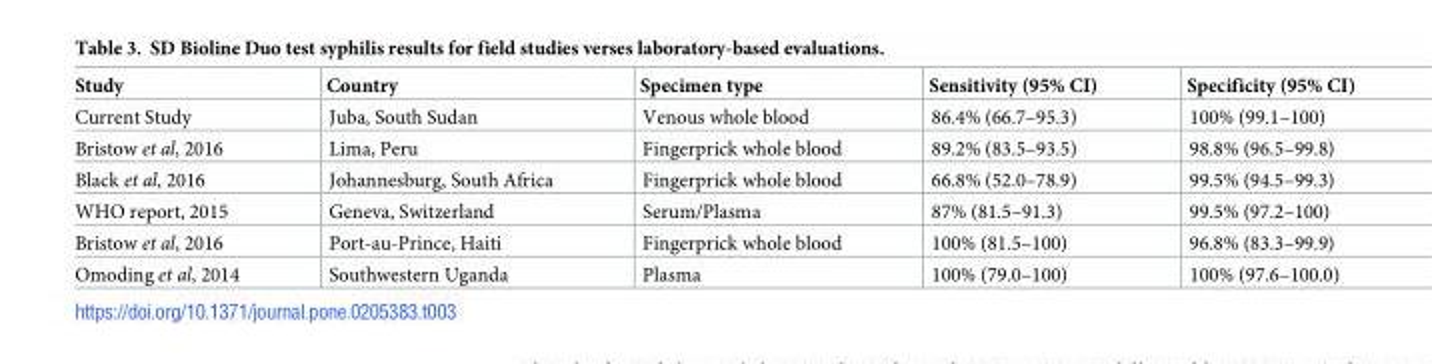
<table><thead><tr><td>Study</td><td>Country</td><td>Specimen type</td><td>Sensitivity (95% CI)</td><td>Specificity (95% CI)</td></tr></thead><tbody><tr><td>Current Study</td><td>Juba, South Sudan</td><td>Venous whole blood</td><td>86.4% (66.7–95.3)</td><td>100% (99.1–100)</td></tr><tr><td>Bristow et al, 2016</td><td>Lima, Peru</td><td>Fingerprick whole blood</td><td>89.2% (83.5–93.5)</td><td>98.8% (96.5–99.8)</td></tr><tr><td>Black et al, 2016</td><td>Johannesburg, South Africa</td><td>Fingerprick whole blood</td><td>66.8% (52.0–78.9)</td><td>99.5% (94.5–99.3)</td></tr><tr><td>WHO report, 2015</td><td>Geneva, Switzerland</td><td>Serum/Plasma</td><td>87% (81.5–91.3)</td><td>99.5% (97.2–100)</td></tr><tr><td>Bristow et al, 2016</td><td>Port-au-Prince, Haiti</td><td>Fingerprick whole blood</td><td>100% (81.5–100)</td><td>96.8% (83.3–99.9)</td></tr><tr><td>Omoding et al, 2014</td><td>Southwestern Uganda</td><td>Plasma</td><td>100% (79.0–100)</td><td>100% (97.6–100.0)</td></tr></tbody></table>